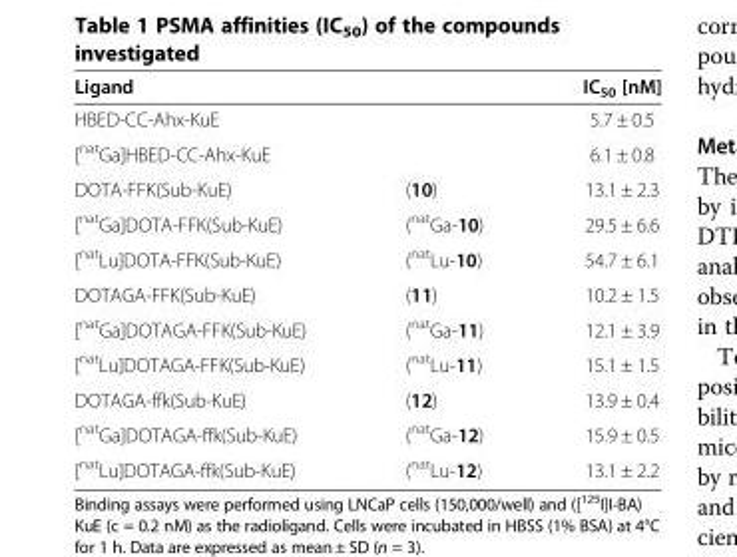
<table><thead><tr><td colspan="2">Ligand</td><td rowspan="2">IC<sub>50</sub> [nM] 5.7 ± 0.5</td></tr><tr><td>HBED-CC-Ahx-KuE</td><td></td></tr></thead><tbody><tr><td>[<sup>nat</sup>Ga]HBED-CC-Ahx-KuE</td><td></td><td>6.1 ± 0.8</td></tr><tr><td>DOTA-FFK(Sub-KuE)</td><td>(10)</td><td>13.1 ± 2.3</td></tr><tr><td>[<sup>nat</sup>Ga]DOTA-FFK(Sub-KuE)</td><td>(<sup>nat</sup>Ga-10)</td><td>29.5 ± 6.6</td></tr><tr><td>[<sup>nat</sup>Lu]DOTA-FFK(Sub-KuE)</td><td>(<sup>nat</sup>Lu-10)</td><td>54.7 ± 6.1</td></tr><tr><td>DOTAGA-FFK(Sub-KuE)</td><td>(11)</td><td>10.2 ± 1.5</td></tr><tr><td>[<sup>nat</sup>Ga]DOTAGA-FFK(Sub-KuE)</td><td>(<sup>nat</sup>Ga-11)</td><td>12.1 ± 3.9</td></tr><tr><td>[<sup>nat</sup>Lu]DOTAGA-FFK(Sub-KuE)</td><td>(<sup>nat</sup>Lu-11)</td><td>15.1 ± 1.5</td></tr><tr><td>DOTAGA-ffk(Sub-KuE)</td><td>(12)</td><td>13.9 ± 0.4</td></tr><tr><td>[<sup>nat</sup>Ga]DOTAGA-ffk(Sub-KuE)</td><td>(<sup>nat</sup>Ga-12)</td><td>15.9 ± 0.5</td></tr><tr><td>[<sup>nat</sup>Lu]DOTAGA-ffk(Sub-KuE)</td><td>(<sup>nat</sup>Lu-12)</td><td>13.1 ± 2.2</td></tr></tbody></table>